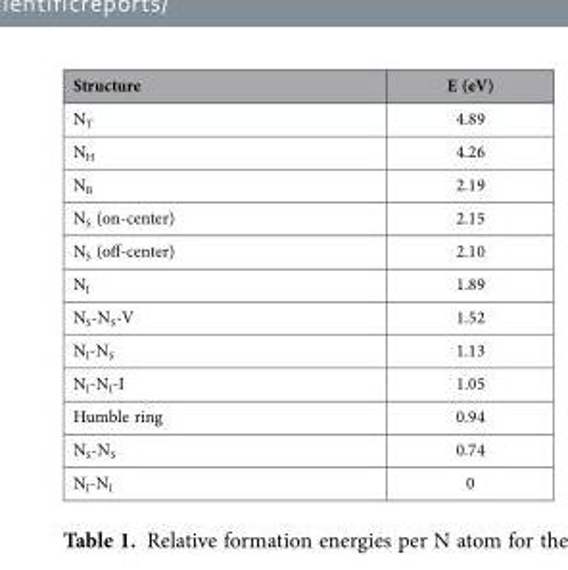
<table><thead><tr><td>Structure</td><td>E (eV)</td></tr></thead><tbody><tr><td>N<sub>T</sub></td><td>4.89</td></tr><tr><td>N<sub>H</sub></td><td>4.26</td></tr><tr><td>N<sub>B</sub></td><td>2.19</td></tr><tr><td>N<sub>S</sub> (on-center)</td><td>2.15</td></tr><tr><td>N<sub>S</sub> (off-center)</td><td>2.10</td></tr><tr><td>N<sub>I</sub></td><td>1.89</td></tr><tr><td>N<sub>S</sub>-N<sub>S</sub>-V</td><td>1.52</td></tr><tr><td>N<sub>I</sub>-N<sub>S</sub></td><td>1.13</td></tr><tr><td>N<sub>I</sub>-N<sub>I</sub>-I</td><td>1.05</td></tr><tr><td>Humble ring</td><td>0.94</td></tr><tr><td>N<sub>S</sub>-N<sub>S</sub></td><td>0.74</td></tr><tr><td>N<sub>I</sub>-N<sub>I</sub></td><td>0</td></tr></tbody></table>